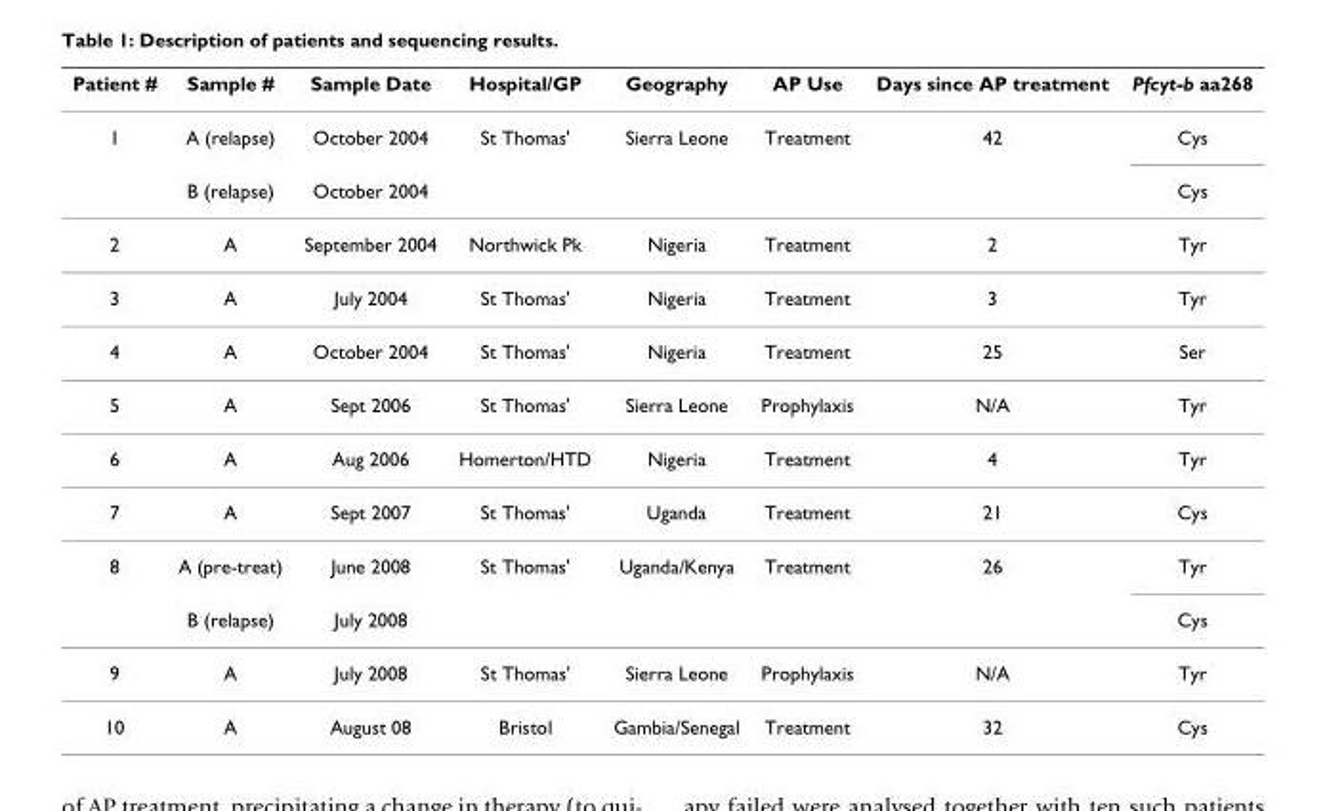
<table><thead><tr><td>Patient #</td><td>Sample #</td><td>Sample Date</td><td>Hospital/GP</td><td>Geography</td><td>AP Use</td><td>Days since AP treatment</td><td>Pfcyt-b aa268</td></tr></thead><tbody><tr><td rowspan="2">1</td><td>A (relapse)</td><td>October 2004</td><td>St Thomas&#x27;</td><td>Sierra Leone</td><td>Treatment</td><td>42</td><td>Cys</td></tr><tr><td>B (relapse)</td><td>October 2004</td><td></td><td></td><td></td><td></td><td>Cys</td></tr><tr><td>2</td><td>A</td><td>September 2004</td><td>Northwick Pk</td><td>Nigeria</td><td>Treatment</td><td>2</td><td>Tyr</td></tr><tr><td>3</td><td>A</td><td>July 2004</td><td>St Thomas&#x27;</td><td>Nigeria</td><td>Treatment</td><td>3</td><td>Tyr</td></tr><tr><td>4</td><td>A</td><td>October 2004</td><td>St Thomas&#x27;</td><td>Nigeria</td><td>Treatment</td><td>25</td><td>Ser</td></tr><tr><td>5</td><td>A</td><td>Sept 2006</td><td>St Thomas&#x27;</td><td>Sierra Leone</td><td>Prophylaxis</td><td>N/A</td><td>Tyr</td></tr><tr><td>6</td><td>A</td><td>Aug 2006</td><td>Homerton/HTD</td><td>Nigeria</td><td>Treatment</td><td>4</td><td>Tyr</td></tr><tr><td>7</td><td>A</td><td>Sept 2007</td><td>St Thomas&#x27;</td><td>Uganda</td><td>Treatment</td><td>21</td><td>Cys</td></tr><tr><td rowspan="2">8</td><td>A (pre-treat)</td><td>June 2008</td><td>St Thomas&#x27;</td><td>Uganda/Kenya</td><td>Treatment</td><td>26</td><td>Tyr</td></tr><tr><td>B (relapse)</td><td>July 2008</td><td></td><td></td><td></td><td></td><td>Cys</td></tr><tr><td>9</td><td>A</td><td>July 2008</td><td>St Thomas&#x27;</td><td>Sierra Leone</td><td>Prophylaxis</td><td>N/A</td><td>Tyr</td></tr><tr><td>10</td><td>A</td><td>August 08</td><td>Bristol</td><td>Gambia/Senegal</td><td>Treatment</td><td>32</td><td>Cys</td></tr></tbody></table>